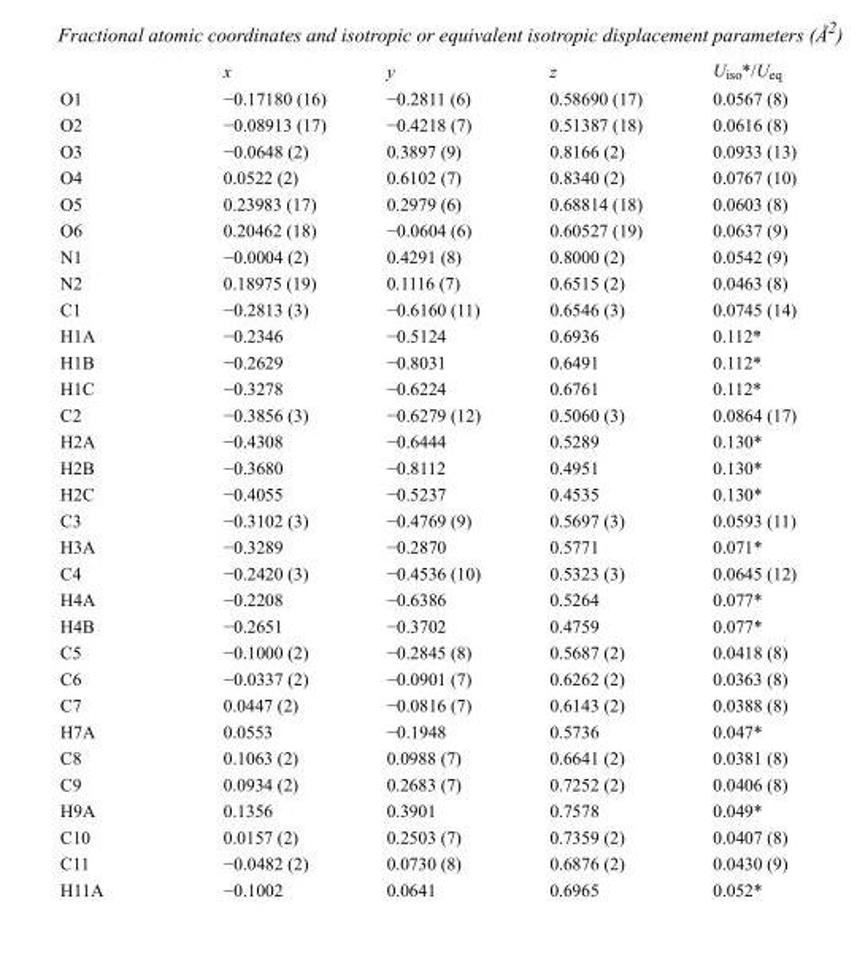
<table><thead><tr><td></td><td>x</td><td>y</td><td>z</td><td>U<sub>iso</sub>*/U<sub>eq</sub></td></tr></thead><tbody><tr><td>O1</td><td>−0.17180 (16)</td><td>−0.2811 (6)</td><td>0.58690 (17)</td><td>0.0567 (8)</td></tr><tr><td>O2</td><td>−0.08913 (17)</td><td>−0.4218 (7)</td><td>0.51387 (18)</td><td>0.0616 (8)</td></tr><tr><td>O3</td><td>−0.0648 (2)</td><td>0.3897 (9)</td><td>0.8166 (2)</td><td>0.0933 (13)</td></tr><tr><td>O4</td><td>0.0522 (2)</td><td>0.6102 (7)</td><td>0.8340 (2)</td><td>0.0767 (10)</td></tr><tr><td>O5</td><td>0.23983 (17)</td><td>0.2979 (6)</td><td>0.68814 (18)</td><td>0.0603 (8)</td></tr><tr><td>O6</td><td>0.20462 (18)</td><td>−0.0604 (6)</td><td>0.60527 (19)</td><td>0.0637 (9)</td></tr><tr><td>N1</td><td>−0.0004 (2)</td><td>0.4291 (8)</td><td>0.8000 (2)</td><td>0.0542 (9)</td></tr><tr><td>N2</td><td>0.18975 (19)</td><td>0.1116 (7)</td><td>0.6515 (2)</td><td>0.0463 (8)</td></tr><tr><td>C1</td><td>−0.2813 (3)</td><td>−0.6160 (11)</td><td>0.6546 (3)</td><td>0.0745 (14)</td></tr><tr><td>H1A</td><td>−0.2346</td><td>−0.5124</td><td>0.6936</td><td>0.112*</td></tr><tr><td>H1B</td><td>−0.2629</td><td>−0.8031</td><td>0.6491</td><td>0.112*</td></tr><tr><td>H1C</td><td>−0.3278</td><td>−0.6224</td><td>0.6761</td><td>0.112*</td></tr><tr><td>C2</td><td>−0.3856 (3)</td><td>−0.6279 (12)</td><td>0.5060 (3)</td><td>0.0864 (17)</td></tr><tr><td>H2A</td><td>−0.4308</td><td>−0.6444</td><td>0.5289</td><td>0.130*</td></tr><tr><td>H2B</td><td>−0.3680</td><td>−0.8112</td><td>0.4951</td><td>0.130*</td></tr><tr><td>H2C</td><td>−0.4055</td><td>−0.5237</td><td>0.4535</td><td>0.130*</td></tr><tr><td>C3</td><td>−0.3102 (3)</td><td>−0.4769 (9)</td><td>0.5697 (3)</td><td>0.0593 (11)</td></tr><tr><td>H3A</td><td>−0.3289</td><td>−0.2870</td><td>0.5771</td><td>0.071*</td></tr><tr><td>C4</td><td>−0.2420 (3)</td><td>−0.4536 (10)</td><td>0.5323 (3)</td><td>0.0645 (12)</td></tr><tr><td>H4A</td><td>−0.2208</td><td>−0.6386</td><td>0.5264</td><td>0.077*</td></tr><tr><td>H4B</td><td>−0.2651</td><td>−0.3702</td><td>0.4759</td><td>0.077*</td></tr><tr><td>C5</td><td>−0.1000 (2)</td><td>−0.2845 (8)</td><td>0.5687 (2)</td><td>0.0418 (8)</td></tr><tr><td>C6</td><td>−0.0337 (2)</td><td>−0.0901 (7)</td><td>0.6262 (2)</td><td>0.0363 (8)</td></tr><tr><td>C7</td><td>0.0447 (2)</td><td>−0.0816 (7)</td><td>0.6143 (2)</td><td>0.0388 (8)</td></tr><tr><td>H7A</td><td>0.0553</td><td>−0.1948</td><td>0.5736</td><td>0.047*</td></tr><tr><td>C8</td><td>0.1063 (2)</td><td>0.0988 (7)</td><td>0.6641 (2)</td><td>0.0381 (8)</td></tr><tr><td>C9</td><td>0.0934 (2)</td><td>0.2683 (7)</td><td>0.7252 (2)</td><td>0.0406 (8)</td></tr><tr><td>H9A</td><td>0.1356</td><td>0.3901</td><td>0.7578</td><td>0.049*</td></tr><tr><td>C10</td><td>0.0157 (2)</td><td>0.2503 (7)</td><td>0.7359 (2)</td><td>0.0407 (8)</td></tr><tr><td>C11</td><td>−0.0482 (2)</td><td>0.0730 (8)</td><td>0.6876 (2)</td><td>0.0430 (9)</td></tr><tr><td>H11A</td><td>−0.1002</td><td>0.0641</td><td>0.6965</td><td>0.052*</td></tr></tbody></table>